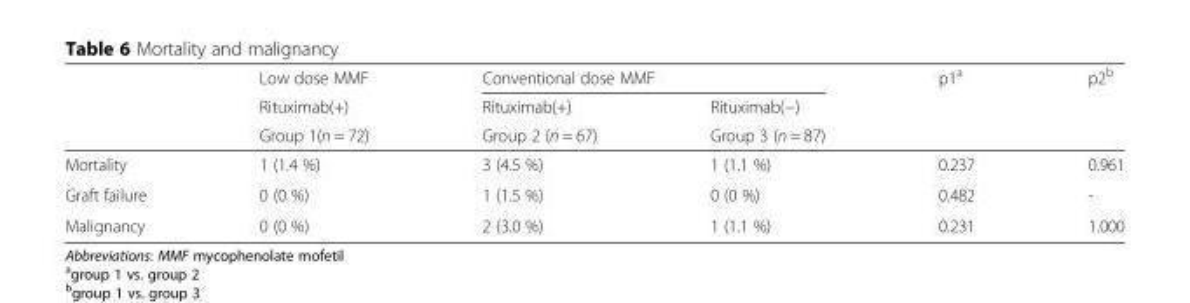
<table><thead><tr><td rowspan="3"></td><td rowspan="3">Low dose MMF Rituximab(+) Group 1(n = 72)</td><td colspan="2">Conventional dose MMF</td><td rowspan="3">p1<sup>a</sup></td><td rowspan="3">p2<sup>b</sup></td></tr><tr><td rowspan="2">Rituximab(+) Group 2 (n = 67)</td><td rowspan="2">Rituximab(−) Group 3 (n = 87)</td></tr><tr></tr></thead><tbody><tr><td>Mortality</td><td>1 (1.4 %)</td><td>3 (4.5 %)</td><td>1 (1.1 %)</td><td>0.237</td><td>0.961</td></tr><tr><td>Graft failure</td><td>0 (0 %)</td><td>1 (1.5 %)</td><td>0 (0 %)</td><td>0.482</td><td>-</td></tr><tr><td>Malignancy</td><td>0 (0 %)</td><td>2 (3.0 %)</td><td>1 (1.1 %)</td><td>0.231</td><td>1.000</td></tr></tbody></table>